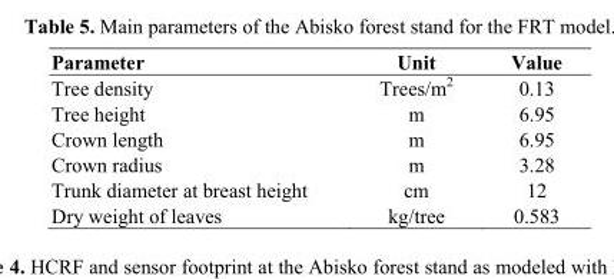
<table><thead><tr><td>Parameter</td><td>Unit</td><td>Value</td></tr></thead><tbody><tr><td>Tree density</td><td>Trees/m<sup>2</sup></td><td>0.13</td></tr><tr><td>Tree height</td><td>m</td><td>6.95</td></tr><tr><td>Crown length</td><td>m</td><td>6.95</td></tr><tr><td>Crown radius</td><td>m</td><td>3.28</td></tr><tr><td>Trunk diameter at breast height</td><td>cm</td><td>12</td></tr><tr><td>Dry weight of leaves</td><td>kg/tree</td><td>0.583</td></tr></tbody></table>